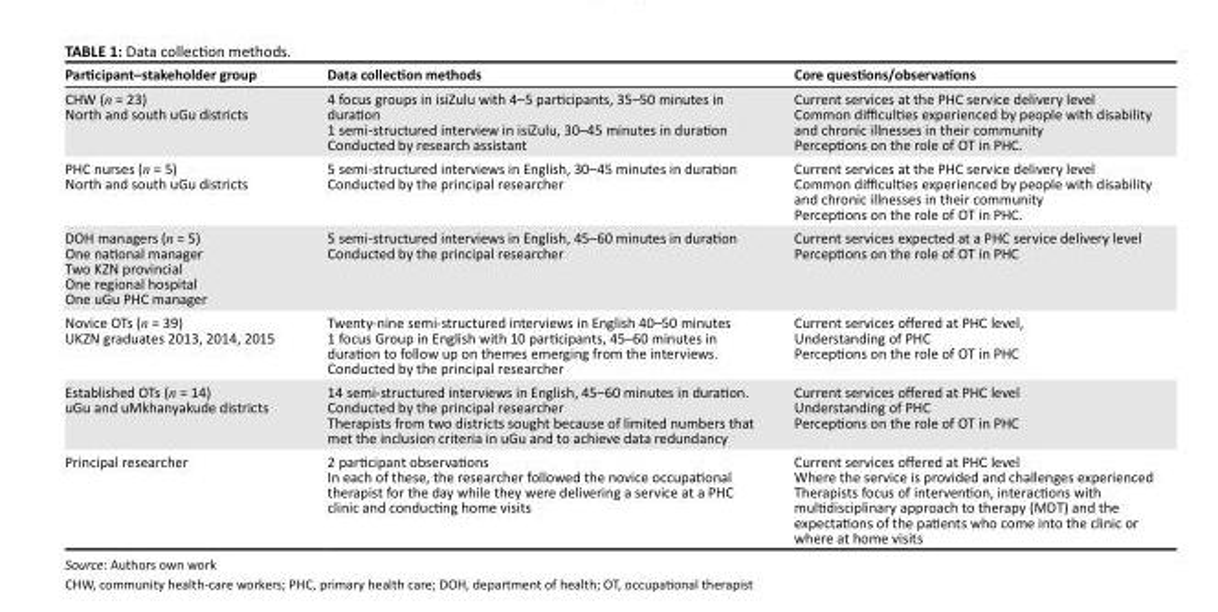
<table><thead><tr><td>Participant–stakeholder group</td><td>Data collection methods</td><td>Core questions/observations</td></tr></thead><tbody><tr><td>CHW (n = 23) North and south uGu districts</td><td>4 focus groups in isiZulu with 4–5 participants, 35–50 minutes in duration 1 semi-structured interview in isiZulu, 30–45 minutes in duration Conducted by research assistant</td><td>Current services at the PHC service delivery level Common difficulties experienced by people with disability and chronic illnesses in their community Perceptions on the role of OT in PHC.</td></tr><tr><td>PHC nurses (n = 5) North and south uGu districts</td><td>5 semi-structured interviews in English, 30–45 minutes in duration Conducted by the principal researcher</td><td>Current services at the PHC service delivery level Common difficulties experienced by people with disability and chronic illnesses in their community Perceptions on the role of OT in PHC.</td></tr><tr><td>DOH managers (n = 5) One national manager Two KZN provincial One regional hospital One uGu PHC manager</td><td>5 semi-structured interviews in English, 45–60 minutes in duration Conducted by the principal researcher</td><td>Current services expected at a PHC service delivery level Perceptions on the role of OT in PHC</td></tr><tr><td>Novice OTs (n = 39) UKZN graduates 2013, 2014, 2015</td><td>Twenty-nine semi-structured interviews in English 40–50 minutes 1 focus Group in English with 10 participants, 45–60 minutes in duration to follow up on themes emerging from the interviews. Conducted by the principal researcher</td><td>Current services offered at PHC level, Understanding of PHC Perceptions on the role of OT in PHC</td></tr><tr><td>Established OTs (n = 14) uGu and uMkhanyakude districts</td><td>14 semi-structured interviews in English, 45–60 minutes in duration. Conducted by the principal researcher Therapists from two districts sought because of limited numbers that met the inclusion criteria in uGu and to achieve data redundancy</td><td>Current services offered at PHC level Understanding of PHC Perceptions on the role of OT in PHC</td></tr><tr><td>Principal researcher</td><td>2 participant observations In each of these, the researcher followed the novice occupational therapist for the day while they were delivering a service at a PHC clinic and conducting home visits</td><td>Current services offered at PHC level Where the service is provided and challenges experienced Therapists focus of intervention, interactions with multidisciplinary approach to therapy (MDT) and the expectations of the patients who come into the clinic or where at home visits</td></tr></tbody></table>